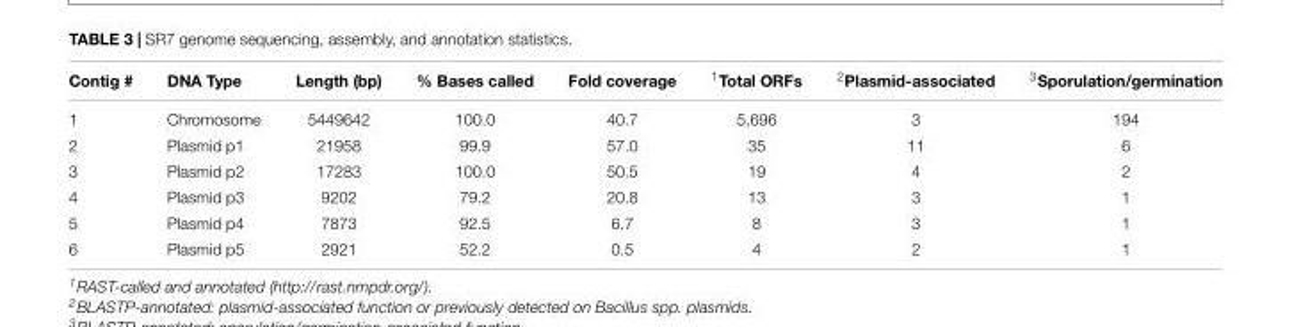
<table><thead><tr><td>Contig #</td><td>DNA Type</td><td>Length (bp)</td><td>% Bases called</td><td>Fold coverage</td><td><sup>1</sup>Total ORFs</td><td><sup>2</sup>Plasmid-associated</td><td><sup>3</sup>Sporulation/germination</td></tr></thead><tbody><tr><td>1</td><td>Chromosome</td><td>5449642</td><td>100.0</td><td>40.7</td><td>5,696</td><td>3</td><td>194</td></tr><tr><td>2</td><td>Plasmid p1</td><td>21958</td><td>99.9</td><td>57.0</td><td>35</td><td>11</td><td>6</td></tr><tr><td>3</td><td>Plasmid p2</td><td>17283</td><td>100.0</td><td>50.5</td><td>19</td><td>4</td><td>2</td></tr><tr><td>4</td><td>Plasmid p3</td><td>9202</td><td>79.2</td><td>20.8</td><td>13</td><td>3</td><td>1</td></tr><tr><td>5</td><td>Plasmid p4</td><td>7873</td><td>92.5</td><td>6.7</td><td>8</td><td>3</td><td>1</td></tr><tr><td>6</td><td>Plasmid p5</td><td>2921</td><td>52.2</td><td>0.5</td><td>4</td><td>2</td><td>1</td></tr></tbody></table>